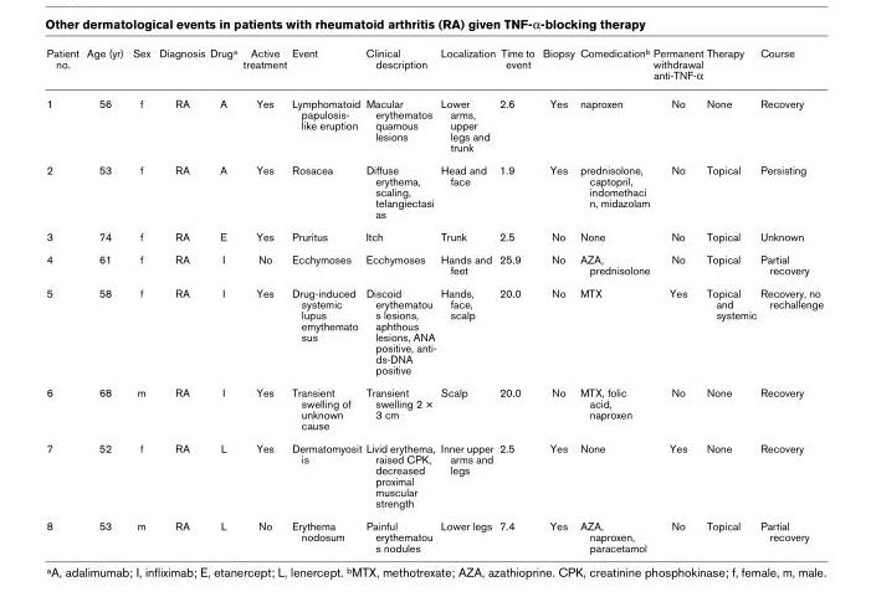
<table><thead><tr><td>Patient no.</td><td>Age (yr)</td><td>Sex</td><td>Diagnosis</td><td>Druga</td><td>Active treatment</td><td>Event</td><td>Clinical description</td><td>Localization</td><td>Time to event</td><td>Biopsy</td><td>Comedicationb</td><td>Permanent withdrawal anti-TNF-α</td><td>Therapy</td><td>Course</td></tr></thead><tbody><tr><td>1</td><td>56</td><td>f</td><td>RA</td><td>A</td><td>Yes</td><td>Lymphomatoid papulosis- like eruption</td><td>Macular erythematos quamous lesions</td><td>Lower arms, upper legs and trunk</td><td>2.6</td><td>Yes</td><td>naproxen</td><td>No</td><td>None</td><td>Recovery</td></tr><tr><td>2</td><td>53</td><td>f</td><td>RA</td><td>A</td><td>Yes</td><td>Rosacea</td><td>Diffuse erythema, scaling, telangiectasi as</td><td>Head and face</td><td>1.9</td><td>Yes</td><td>prednisolone, captopril, indomethaci n, midazolam</td><td>No</td><td>Topical</td><td>Persisting</td></tr><tr><td>3</td><td>74</td><td>f</td><td>RA</td><td>E</td><td>Yes</td><td>Pruritus</td><td>Itch</td><td>Trunk</td><td>2.5</td><td>No</td><td>None</td><td>No</td><td>Topical</td><td>Unknown</td></tr><tr><td>4</td><td>61</td><td>f</td><td>RA</td><td>I</td><td>No</td><td>Ecchymoses</td><td>Ecchymoses</td><td>Hands and feet</td><td>25.9</td><td>No</td><td>AZA, prednisolone</td><td>No</td><td>Topical</td><td>Partial recovery</td></tr><tr><td>5</td><td>58</td><td>f</td><td>RA</td><td>I</td><td>Yes</td><td>Drug-induced systemic lupus emythemato sus</td><td>Discoid erythematou s lesions, aphthous lesions, ANA positive, anti- ds-DNA positive</td><td>Hands, face, scalp</td><td>20.0</td><td>No</td><td>MTX</td><td>Yes</td><td>Topical and systemic</td><td>Recovery, no rechallenge</td></tr><tr><td>6</td><td>68</td><td>m</td><td>RA</td><td>I</td><td>Yes</td><td>Transient swelling of unknown cause</td><td>Transient swelling 2 × 3 cm</td><td>Scalp</td><td>20.0</td><td>No</td><td>MTX, folic acid, naproxen</td><td>No</td><td>None</td><td>Recovery</td></tr><tr><td>7</td><td>52</td><td>f</td><td>RA</td><td>L</td><td>Yes</td><td>Dermatomyosit is</td><td>Livid erythema, raised CPK, decreased proximal muscular strength</td><td>Inner upper arms and legs</td><td>2.5</td><td>Yes</td><td>None</td><td>Yes</td><td>None</td><td>Recovery</td></tr><tr><td>8</td><td>53</td><td>m</td><td>RA</td><td>L</td><td>No</td><td>Erythema nodosum</td><td>Painful erythematou s nodules</td><td>Lower legs</td><td>7.4</td><td>Yes</td><td>AZA, naproxen, paracetamol</td><td>No</td><td>Topical</td><td>Partial recovery</td></tr></tbody></table>